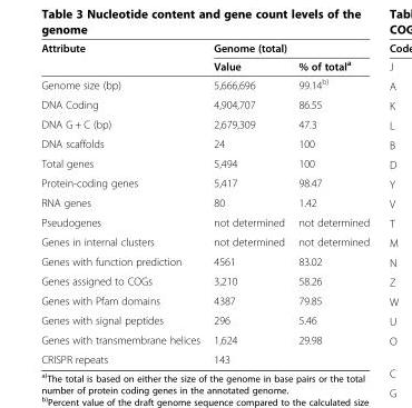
<table><thead><tr><td rowspan="2">Attribute</td><td colspan="2">Genome (total)</td></tr><tr><td>Value</td><td>% of total<sup>a</sup></td></tr></thead><tbody><tr><td>Genome size (bp)</td><td>5,666,696</td><td>99.14<sup>b)</sup></td></tr><tr><td>DNA Coding</td><td>4,904,707</td><td>86.55</td></tr><tr><td>DNA G + C (bp)</td><td>2,679,309</td><td>47.3</td></tr><tr><td>DNA scaffolds</td><td>24</td><td>100</td></tr><tr><td>Total genes</td><td>5,494</td><td>100</td></tr><tr><td>Protein-coding genes</td><td>5,417</td><td>98.47</td></tr><tr><td>RNA genes</td><td>80</td><td>1.42</td></tr><tr><td>Pseudogenes</td><td>not determined</td><td>not determined</td></tr><tr><td>Genes in internal clusters</td><td>not determined</td><td>not determined</td></tr><tr><td>Genes with function prediction</td><td>4561</td><td>83.02</td></tr><tr><td>Genes assigned to COGs</td><td>3,210</td><td>58.26</td></tr><tr><td>Genes with Pfam domains</td><td>4387</td><td>79.85</td></tr><tr><td>Genes with signal peptides</td><td>296</td><td>5.46</td></tr><tr><td>Genes with transmembrane helices</td><td>1,624</td><td>29.98</td></tr><tr><td>CRISPR repeats</td><td>143</td><td></td></tr></tbody></table>